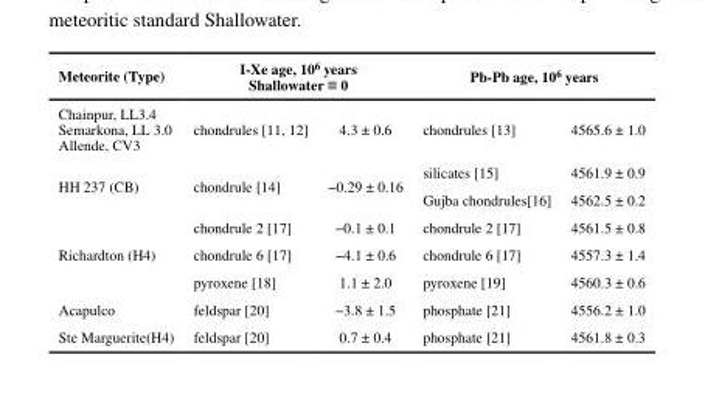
<table><thead><tr><td rowspan="2">Meteorite (Type) Chainpur, LL3.4 Semarkona, LL 3.0 Allende, CV3</td><td colspan="2">I-Xe age, 10<sup>6</sup> years Shallowater ≡ 0</td><td colspan="2">Pb-Pb age, 10<sup>6</sup> years</td></tr><tr><td>chondrules [11, 12]</td><td>4.3 ± 0.6</td><td>chondrules [13]</td><td>4565.6 ± 1.0</td></tr></thead><tbody><tr><td rowspan="2">HH 237 (CB)</td><td rowspan="2">chondrule [14]</td><td rowspan="2">−0.29 ± 0.16</td><td>silicates [15]</td><td>4561.9 ± 0.9</td></tr><tr><td>Gujba chondrules[16]</td><td>4562.5 ± 0.2</td></tr><tr><td rowspan="3">Richardton (H4)</td><td>chondrule 2 [17]</td><td>−0.1 ± 0.1</td><td>chondrule 2 [17]</td><td>4561.5 ± 0.8</td></tr><tr><td>chondrule 6 [17]</td><td>−4.1 ± 0.6</td><td>chondrule 6 [17]</td><td>4557.3 ± 1.4</td></tr><tr><td>pyroxene [18]</td><td>1.1 ± 2.0</td><td>pyroxene [19]</td><td>4560.3 ± 0.6</td></tr><tr><td>Acapulco</td><td>feldspar [20]</td><td>−3.8 ± 1.5</td><td>phosphate [21]</td><td>4556.2 ± 1.0</td></tr><tr><td>Ste Marguerite(H4)</td><td>feldspar [20]</td><td>0.7 ± 0.4</td><td>phosphate [21]</td><td>4561.8 ± 0.3</td></tr></tbody></table>